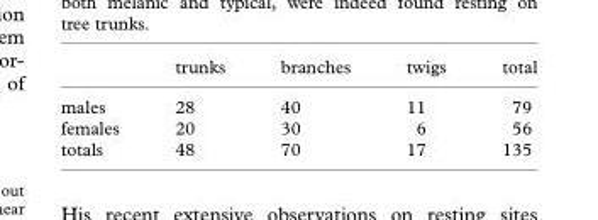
<table><thead><tr><td></td><td>trunks</td><td>branches</td><td>twigs</td><td>total</td></tr></thead><tbody><tr><td>males</td><td>28</td><td>40</td><td>11</td><td>79</td></tr><tr><td>females</td><td>20</td><td>30</td><td>6</td><td>56</td></tr><tr><td>totals</td><td>48</td><td>70</td><td>17</td><td>135</td></tr></tbody></table>